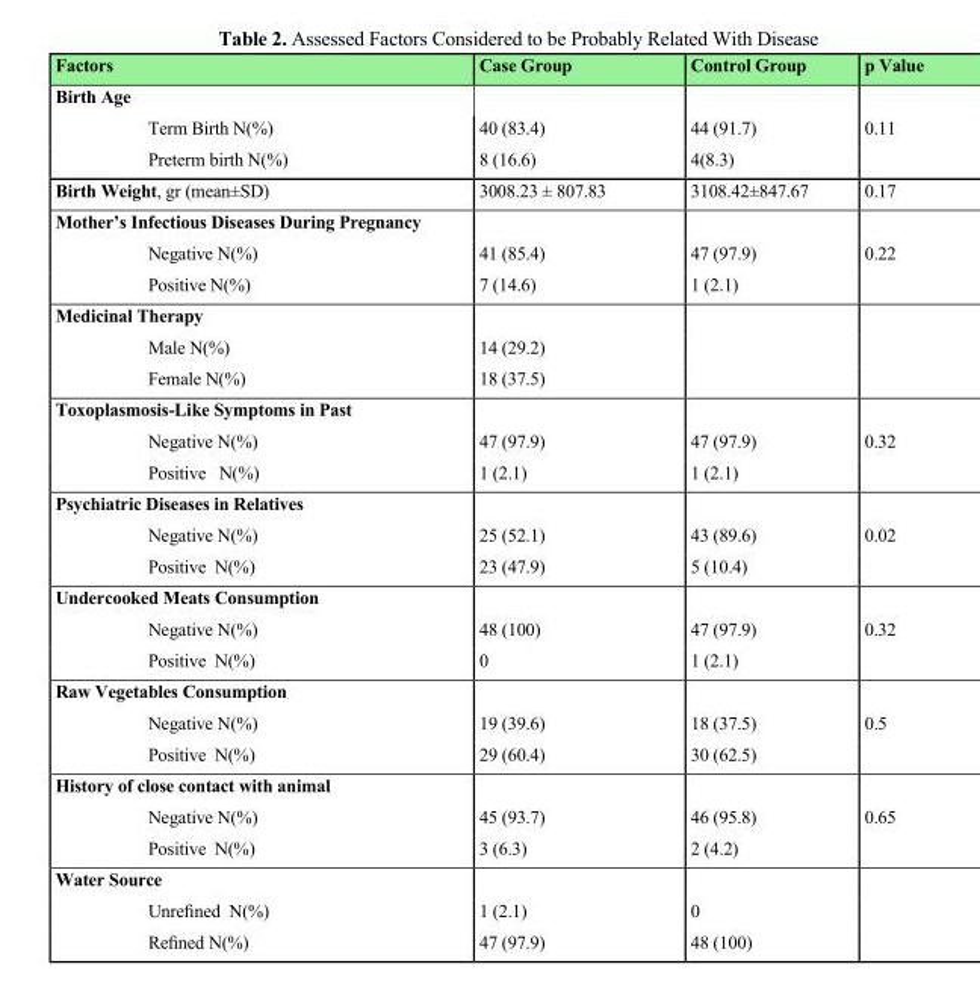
<table><thead><tr><td>Factors</td><td>Case Group</td><td>Control Group</td><td>p Value</td></tr></thead><tbody><tr><td colspan="4">Birth Age</td></tr><tr><td>Term Birth N(%)</td><td>40 (83.4)</td><td>44 (91.7)</td><td>0.11</td></tr><tr><td>Preterm birth N(%)</td><td>8 (16.6)</td><td>4(8.3)</td><td></td></tr><tr><td>Birth Weight, gr (mean±SD)</td><td>3008.23 ± 807.83</td><td>3108.42±847.67</td><td>0.17</td></tr><tr><td colspan="4">Mother’s Infectious Diseases During Pregnancy</td></tr><tr><td>Negative N(%)</td><td>41 (85.4)</td><td>47 (97.9)</td><td>0.22</td></tr><tr><td>Positive N(%)</td><td>7 (14.6)</td><td>1 (2.1)</td><td></td></tr><tr><td colspan="4">Medicinal Therapy</td></tr><tr><td>Male N(%)</td><td>14 (29.2)</td><td></td><td></td></tr><tr><td>Female N(%)</td><td>18 (37.5)</td><td></td><td></td></tr><tr><td colspan="4">Toxoplasmosis-Like Symptoms in Past</td></tr><tr><td>Negative N(%)</td><td>47 (97.9)</td><td>47 (97.9)</td><td>0.32</td></tr><tr><td>Positive N(%)</td><td>1 (2.1)</td><td>1 (2.1)</td><td></td></tr><tr><td colspan="4">Psychiatric Diseases in Relatives</td></tr><tr><td>Negative N(%)</td><td>25 (52.1)</td><td>43 (89.6)</td><td>0.02</td></tr><tr><td>Positive N(%)</td><td>23 (47.9)</td><td>5 (10.4)</td><td></td></tr><tr><td colspan="4">Undercooked Meats Consumption</td></tr><tr><td>Negative N(%)</td><td>48 (100)</td><td>47 (97.9)</td><td>0.32</td></tr><tr><td>Positive N(%)</td><td>0</td><td>1 (2.1)</td><td></td></tr><tr><td colspan="4">Raw Vegetables Consumption</td></tr><tr><td>Negative N(%)</td><td>19 (39.6)</td><td>18 (37.5)</td><td>0.5</td></tr><tr><td>Positive N(%)</td><td>29 (60.4)</td><td>30 (62.5)</td><td></td></tr><tr><td colspan="4">History of close contact with animal</td></tr><tr><td>Negative N(%)</td><td>45 (93.7)</td><td>46 (95.8)</td><td>0.65</td></tr><tr><td>Positive N(%)</td><td>3 (6.3)</td><td>2 (4.2)</td><td></td></tr><tr><td colspan="4">Water Source</td></tr><tr><td>Unrefined N(%)</td><td>1 (2.1)</td><td>0</td><td></td></tr><tr><td>Refined N(%)</td><td>47 (97.9)</td><td>48 (100)</td><td></td></tr></tbody></table>